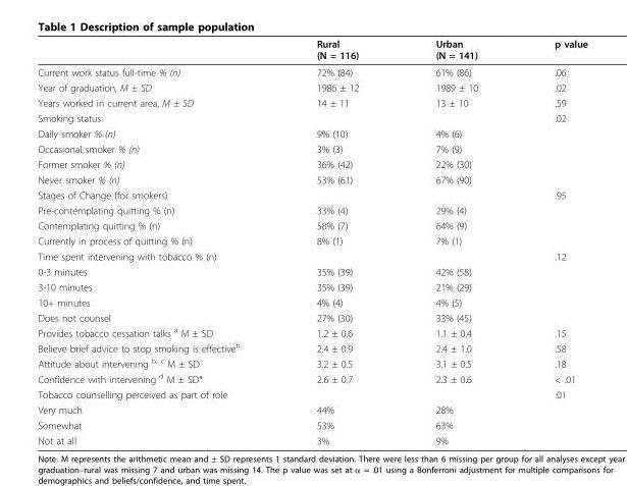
<table><thead><tr><td></td><td>Rural (N = 116)</td><td>Urban (N = 141)</td><td>p value</td></tr></thead><tbody><tr><td>Current work status full-time % (n)</td><td>72% (84)</td><td>61% (86)</td><td>.06</td></tr><tr><td>Year of graduation, M ± SD</td><td>1986 ± 12</td><td>1989 ± 10</td><td>.02</td></tr><tr><td>Years worked in current area, M ± SD</td><td>14 ± 11</td><td>13 ± 10</td><td>.59</td></tr><tr><td>Smoking status</td><td></td><td></td><td>.02</td></tr><tr><td>Daily smoker % (n)</td><td>9% (10)</td><td>4% (6)</td><td></td></tr><tr><td>Occasional smoker % (n)</td><td>3% (3)</td><td>7% (9)</td><td></td></tr><tr><td>Former smoker % (n)</td><td>36% (42)</td><td>22% (30)</td><td></td></tr><tr><td>Never smoker % (n)</td><td>53% (61)</td><td>67% (90)</td><td></td></tr><tr><td>Stages of Change (for smokers)</td><td></td><td></td><td>.95</td></tr><tr><td>Pre-contemplating quitting % (n)</td><td>33% (4)</td><td>29% (4)</td><td></td></tr><tr><td>Contemplating quitting % (n)</td><td>58% (7)</td><td>64% (9)</td><td></td></tr><tr><td>Currently in process of quitting % (n)</td><td>8% (1)</td><td>7% (1)</td><td></td></tr><tr><td>Time spent intervening with tobacco % (n)</td><td></td><td></td><td>.12</td></tr><tr><td>0-3 minutes</td><td>35% (39)</td><td>42% (58)</td><td></td></tr><tr><td>3-10 minutes</td><td>35% (39)</td><td>21% (29)</td><td></td></tr><tr><td>10+ minutes</td><td>4% (4)</td><td>4% (5)</td><td></td></tr><tr><td>Does not counsel</td><td>27% (30)</td><td>33% (45)</td><td></td></tr><tr><td>Provides tobacco cessation talks <sup>a</sup> M ± SD</td><td>1.2 ± 0.6</td><td>1.1 ± 0.4</td><td>.15</td></tr><tr><td>Believe brief advice to stop smoking is effective<sup>b</sup></td><td>2.4 ± 0.9</td><td>2.4 ± 1.0</td><td>.58</td></tr><tr><td>Attitude about intervening <sup>b, c</sup> M ± SD</td><td>3.2 ± 0.5</td><td>3.1 ± 0.5</td><td>.18</td></tr><tr><td>Confidence with intervening <sup>d</sup> M ± SD*</td><td>2.6 ± 0.7</td><td>2.3 ± 0.6</td><td>&lt; .01</td></tr><tr><td>Tobacco counselling perceived as part of role</td><td></td><td></td><td>.01</td></tr><tr><td>Very much</td><td>44%</td><td>28%</td><td></td></tr><tr><td>Somewhat</td><td>53%</td><td>63%</td><td></td></tr><tr><td>Not at all</td><td>3%</td><td>9%</td><td></td></tr></tbody></table>